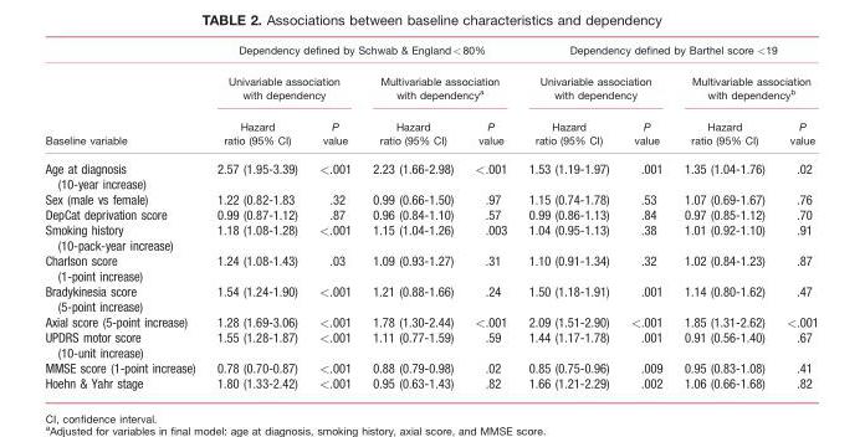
<table><thead><tr><td rowspan="3">Baseline variable</td><td colspan="4">Dependency defined by Schwab &amp; England &lt; 80%</td><td colspan="4">Dependency defined by Barthel score &lt;19</td></tr><tr><td colspan="2">Univariable association with dependency</td><td colspan="2">Multivariable association with dependency<sup>a</sup></td><td colspan="2">Univariable association with dependency</td><td colspan="2">Multivariable association with dependency<sup>b</sup></td></tr><tr><td>Hazard ratio (95% CI)</td><td>P value</td><td>Hazard ratio (95% CI)</td><td>P value</td><td>Hazard ratio (95% CI)</td><td>P value</td><td>Hazard ratio (95% CI)</td><td>P value</td></tr></thead><tbody><tr><td>Age at diagnosis (10-year increase)</td><td>2.57 (1.95-3.39)</td><td>&lt;.001</td><td>2.23 (1.66-2.98)</td><td>&lt;.001</td><td>1.53 (1.19-1.97)</td><td>.001</td><td>1.35 (1.04-1.76)</td><td>.02</td></tr><tr><td>Sex (male vs female)</td><td>1.22 (0.82-1.83</td><td>.32</td><td>0.99 (0.66-1.50)</td><td>.97</td><td>1.15 (0.74-1.78)</td><td>.53</td><td>1.07 (0.69-1.67)</td><td>.76</td></tr><tr><td>DepCat deprivation score</td><td>0.99 (0.87-1.12)</td><td>.87</td><td>0.96 (0.84-1.10)</td><td>.57</td><td>0.99 (0.86-1.13)</td><td>.84</td><td>0.97 (0.85-1.12)</td><td>.70</td></tr><tr><td>Smoking history (10-pack-year increase)</td><td>1.18 (1.08-1.28)</td><td>&lt;.001</td><td>1.15 (1.04-1.26)</td><td>.003</td><td>1.04 (0.95-1.13)</td><td>.38</td><td>1.01 (0.92-1.10)</td><td>.91</td></tr><tr><td>Charlson score (1-point increase)</td><td>1.24 (1.08-1.43)</td><td>.03</td><td>1.09 (0.93-1.27)</td><td>.31</td><td>1.10 (0.91-1.34)</td><td>.32</td><td>1.02 (0.84-1.23)</td><td>.87</td></tr><tr><td>Bradykinesia score (5-point increase)</td><td>1.54 (1.24-1.90)</td><td>&lt;.001</td><td>1.21 (0.88-1.66)</td><td>.24</td><td>1.50 (1.18-1.91)</td><td>.001</td><td>1.14 (0.80-1.62)</td><td>.47</td></tr><tr><td>Axial score (5-point increase)</td><td>1.28 (1.69-3.06)</td><td>&lt;.001</td><td>1.78 (1.30-2.44)</td><td>&lt;.001</td><td>2.09 (1.51-2.90)</td><td>&lt;.001</td><td>1.85 (1.31-2.62)</td><td>&lt;.001</td></tr><tr><td>UPDRS motor score (10-unit increase)</td><td>1.55 (1.28-1.87)</td><td>&lt;.001</td><td>1.11 (0.77-1.59)</td><td>.59</td><td>1.44 (1.17-1.78)</td><td>.001</td><td>0.91 (0.56-1.40)</td><td>.67</td></tr><tr><td>MMSE score (1-point increase)</td><td>0.78 (0.70-0.87)</td><td>&lt;.001</td><td>0.88 (0.79-0.98)</td><td>.02</td><td>0.85 (0.75-0.96)</td><td>.009</td><td>0.95 (0.83-1.08)</td><td>.41</td></tr><tr><td>Hoehn &amp; Yahr stage</td><td>1.80 (1.33-2.42)</td><td>&lt;.001</td><td>0.95 (0.63-1.43)</td><td>.82</td><td>1.66 (1.21-2.29)</td><td>.002</td><td>1.06 (0.66-1.68)</td><td>.82</td></tr></tbody></table>